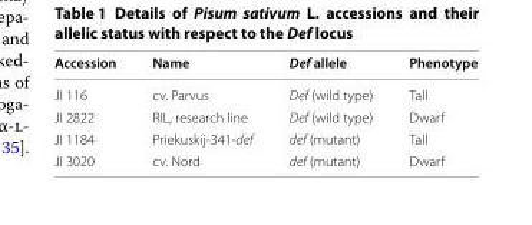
<table><thead><tr><td>Accession</td><td>Name</td><td>Def allele</td><td>Phenotype</td></tr></thead><tbody><tr><td>JI 116</td><td>cv. Parvus</td><td>Def (wild type)</td><td>Tall</td></tr><tr><td>JI 2822</td><td>RIL, research line</td><td>Def (wild type)</td><td>Dwarf</td></tr><tr><td>JI 1184</td><td>Priekuskij‑341‑def</td><td>def (mutant)</td><td>Tall</td></tr><tr><td>JI 3020</td><td>cv. Nord</td><td>def (mutant)</td><td>Dwarf</td></tr></tbody></table>